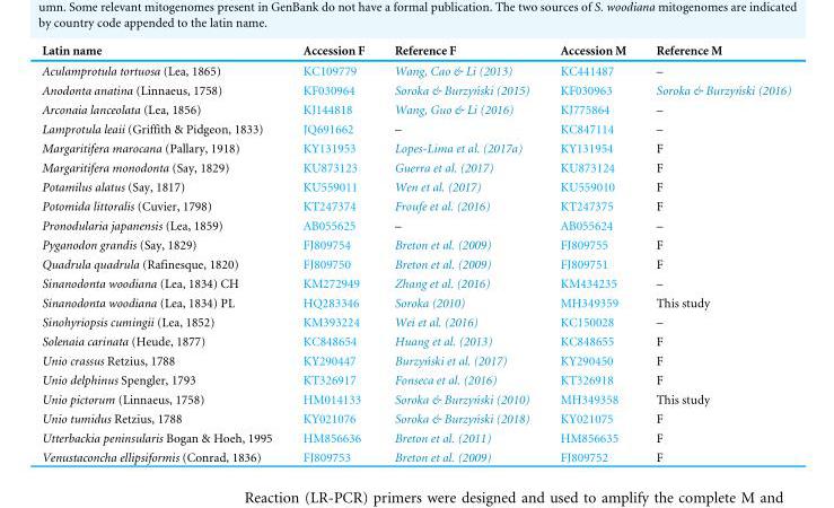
<table><thead><tr><td>Latin name</td><td>Accession F</td><td>Reference F</td><td>Accession M</td><td>Reference M</td></tr></thead><tbody><tr><td>Aculamprotula tortuosa (Lea, 1865)</td><td>KC109779</td><td>Wang, Cao &amp; Li (2013)</td><td>KC441487</td><td>–</td></tr><tr><td>Anodonta anatina (Linnaeus, 1758)</td><td>KF030964</td><td>Soroka &amp; Burzyński (2015)</td><td>KF030963</td><td>Soroka &amp; Burzyński (2016)</td></tr><tr><td>Arconaia lanceolata (Lea, 1856)</td><td>KJ144818</td><td>Wang, Guo &amp; Li (2016)</td><td>KJ775864</td><td>–</td></tr><tr><td>Lamprotula leaii (Griffith &amp; Pidgeon, 1833)</td><td>JQ691662</td><td>–</td><td>KC847114</td><td>–</td></tr><tr><td>Margaritifera marocana (Pallary, 1918)</td><td>KY131953</td><td>Lopes-Lima et al. (2017a)</td><td>KY131954</td><td>F</td></tr><tr><td>Margaritifera monodonta (Say, 1829)</td><td>KU873123</td><td>Guerra et al. (2017)</td><td>KU873124</td><td>F</td></tr><tr><td>Potamilus alatus (Say, 1817)</td><td>KU559011</td><td>Wen et al. (2017)</td><td>KU559010</td><td>F</td></tr><tr><td>Potomida littoralis (Cuvier, 1798)</td><td>KT247374</td><td>Froufe et al. (2016)</td><td>KT247375</td><td>F</td></tr><tr><td>Pronodularia japanensis (Lea, 1859)</td><td>AB055625</td><td>–</td><td>AB055624</td><td>–</td></tr><tr><td>Pyganodon grandis (Say, 1829)</td><td>FJ809754</td><td>Breton et al. (2009)</td><td>FJ809755</td><td>F</td></tr><tr><td>Quadrula quadrula (Rafinesque, 1820)</td><td>FJ809750</td><td>Breton et al. (2009)</td><td>FJ809751</td><td>F</td></tr><tr><td>Sinanodonta woodiana (Lea, 1834) CH</td><td>KM272949</td><td>Zhang et al. (2016)</td><td>KM434235</td><td>–</td></tr><tr><td>Sinanodonta woodiana (Lea, 1834) PL</td><td>HQ283346</td><td>Soroka (2010)</td><td>MH349359</td><td>This study</td></tr><tr><td>Sinohyriopsis cumingii (Lea, 1852)</td><td>KM393224</td><td>Wei et al. (2016)</td><td>KC150028</td><td>–</td></tr><tr><td>Solenaia carinata (Heude, 1877)</td><td>KC848654</td><td>Huang et al. (2013)</td><td>KC848655</td><td>F</td></tr><tr><td>Unio crassus Retzius, 1788</td><td>KY290447</td><td>Burzyński et al. (2017)</td><td>KY290450</td><td>F</td></tr><tr><td>Unio delphinus Spengler, 1793</td><td>KT326917</td><td>Fonseca et al. (2016)</td><td>KT326918</td><td>F</td></tr><tr><td>Unio pictorum (Linnaeus, 1758)</td><td>HM014133</td><td>Soroka &amp; Burzyński (2010)</td><td>MH349358</td><td>This study</td></tr><tr><td>Unio tumidus Retzius, 1788</td><td>KY021076</td><td>Soroka &amp; Burzyński (2018)</td><td>KY021075</td><td>F</td></tr><tr><td>Utterbackia peninsularis Bogan &amp; Hoeh, 1995</td><td>HM856636</td><td>Breton et al. (2011)</td><td>HM856635</td><td>F</td></tr><tr><td>Venustaconcha ellipsiformis (Conrad, 1836)</td><td>FJ809753</td><td>Breton et al. (2009)</td><td>FJ809752</td><td>F</td></tr></tbody></table>